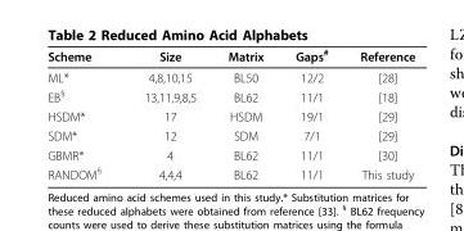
<table><thead><tr><td>Scheme</td><td>Size</td><td>Matrix</td><td>Gaps<sup>#</sup></td><td>Reference</td></tr></thead><tbody><tr><td>ML*</td><td>4,8,10,15</td><td>BL50</td><td>12/2</td><td>[28]</td></tr><tr><td>EB<sup>§</sup></td><td>13,11,9,8,5</td><td>BL62</td><td>11/1</td><td>[18]</td></tr><tr><td>HSDM*</td><td>17</td><td>HSDM</td><td>19/1</td><td>[29]</td></tr><tr><td>SDM*</td><td>12</td><td>SDM</td><td>7/1</td><td>[29]</td></tr><tr><td>GBMR*</td><td>4</td><td>BL62</td><td>11/1</td><td>[30]</td></tr><tr><td>RANDOM<sup>§</sup></td><td>4,4,4</td><td>BL62</td><td>11/1</td><td>This study</td></tr></tbody></table>